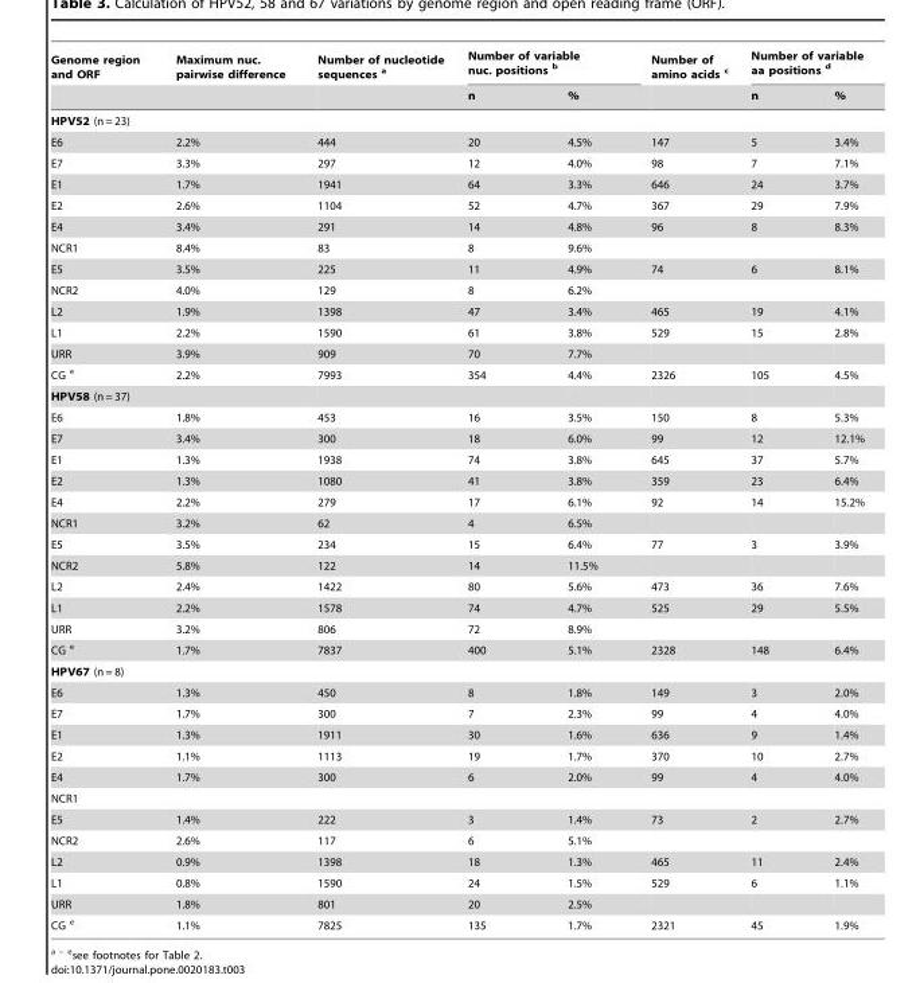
<table><thead><tr><td rowspan="2">Genome region and ORF</td><td rowspan="2">Maximum nuc. pairwise difference</td><td rowspan="2">Number of nucleotide sequences <sup>a</sup></td><td colspan="2">Number of variable nuc. positions <sup>b</sup></td><td rowspan="2">Number of amino acids <sup>c</sup></td><td colspan="2">Number of variable aa positions <sup>d</sup></td></tr><tr><td>n</td><td>%</td><td>n</td><td>%</td></tr></thead><tbody><tr><td colspan="8">HPV52 (n = 23)</td></tr><tr><td>E6</td><td>2.2%</td><td>444</td><td>20</td><td>4.5%</td><td>147</td><td>5</td><td>3.4%</td></tr><tr><td>E7</td><td>3.3%</td><td>297</td><td>12</td><td>4.0%</td><td>98</td><td>7</td><td>7.1%</td></tr><tr><td>E1</td><td>1.7%</td><td>1941</td><td>64</td><td>3.3%</td><td>646</td><td>24</td><td>3.7%</td></tr><tr><td>E2</td><td>2.6%</td><td>1104</td><td>52</td><td>4.7%</td><td>367</td><td>29</td><td>7.9%</td></tr><tr><td>E4</td><td>3.4%</td><td>291</td><td>14</td><td>4.8%</td><td>96</td><td>8</td><td>8.3%</td></tr><tr><td>NCR1</td><td>8.4%</td><td>83</td><td>8</td><td>9.6%</td><td></td><td></td><td></td></tr><tr><td>E5</td><td>3.5%</td><td>225</td><td>11</td><td>4.9%</td><td>74</td><td>6</td><td>8.1%</td></tr><tr><td>NCR2</td><td>4.0%</td><td>129</td><td>8</td><td>6.2%</td><td></td><td></td><td></td></tr><tr><td>L2</td><td>1.9%</td><td>1398</td><td>47</td><td>3.4%</td><td>465</td><td>19</td><td>4.1%</td></tr><tr><td>L1</td><td>2.2%</td><td>1590</td><td>61</td><td>3.8%</td><td>529</td><td>15</td><td>2.8%</td></tr><tr><td>URR</td><td>3.9%</td><td>909</td><td>70</td><td>7.7%</td><td></td><td></td><td></td></tr><tr><td>CG <sup>e</sup></td><td>2.2%</td><td>7993</td><td>354</td><td>4.4%</td><td>2326</td><td>105</td><td>4.5%</td></tr><tr><td colspan="8">HPV58 (n = 37)</td></tr><tr><td>E6</td><td>1.8%</td><td>453</td><td>16</td><td>3.5%</td><td>150</td><td>8</td><td>5.3%</td></tr><tr><td>E7</td><td>3.4%</td><td>300</td><td>18</td><td>6.0%</td><td>99</td><td>12</td><td>12.1%</td></tr><tr><td>E1</td><td>1.3%</td><td>1938</td><td>74</td><td>3.8%</td><td>645</td><td>37</td><td>5.7%</td></tr><tr><td>E2</td><td>1.3%</td><td>1080</td><td>41</td><td>3.8%</td><td>359</td><td>23</td><td>6.4%</td></tr><tr><td>E4</td><td>2.2%</td><td>279</td><td>17</td><td>6.1%</td><td>92</td><td>14</td><td>15.2%</td></tr><tr><td>NCR1</td><td>3.2%</td><td>62</td><td>4</td><td>6.5%</td><td></td><td></td><td></td></tr><tr><td>E5</td><td>3.5%</td><td>234</td><td>15</td><td>6.4%</td><td>77</td><td>3</td><td>3.9%</td></tr><tr><td>NCR2</td><td>5.8%</td><td>122</td><td>14</td><td>11.5%</td><td></td><td></td><td></td></tr><tr><td>L2</td><td>2.4%</td><td>1422</td><td>80</td><td>5.6%</td><td>473</td><td>36</td><td>7.6%</td></tr><tr><td>L1</td><td>2.2%</td><td>1578</td><td>74</td><td>4.7%</td><td>525</td><td>29</td><td>5.5%</td></tr><tr><td>URR</td><td>3.2%</td><td>806</td><td>72</td><td>8.9%</td><td></td><td></td><td></td></tr><tr><td>CG <sup>e</sup></td><td>1.7%</td><td>7837</td><td>400</td><td>5.1%</td><td>2328</td><td>148</td><td>6.4%</td></tr><tr><td colspan="8">HPV67 (n = 8)</td></tr><tr><td>E6</td><td>1.3%</td><td>450</td><td>8</td><td>1.8%</td><td>149</td><td>3</td><td>2.0%</td></tr><tr><td>E7</td><td>1.7%</td><td>300</td><td>7</td><td>2.3%</td><td>99</td><td>4</td><td>4.0%</td></tr><tr><td>E1</td><td>1.3%</td><td>1911</td><td>30</td><td>1.6%</td><td>636</td><td>9</td><td>1.4%</td></tr><tr><td>E2</td><td>1.1%</td><td>1113</td><td>19</td><td>1.7%</td><td>370</td><td>10</td><td>2.7%</td></tr><tr><td>E4</td><td>1.7%</td><td>300</td><td>6</td><td>2.0%</td><td>99</td><td>4</td><td>4.0%</td></tr><tr><td colspan="8">NCR1</td></tr><tr><td>E5</td><td>1.4%</td><td>222</td><td>3</td><td>1.4%</td><td>73</td><td>2</td><td>2.7%</td></tr><tr><td>NCR2</td><td>2.6%</td><td>117</td><td>6</td><td>5.1%</td><td></td><td></td><td></td></tr><tr><td>L2</td><td>0.9%</td><td>1398</td><td>18</td><td>1.3%</td><td>465</td><td>11</td><td>2.4%</td></tr><tr><td>L1</td><td>0.8%</td><td>1590</td><td>24</td><td>1.5%</td><td>529</td><td>6</td><td>1.1%</td></tr><tr><td>URR</td><td>1.8%</td><td>801</td><td>20</td><td>2.5%</td><td></td><td></td><td></td></tr><tr><td>CG <sup>e</sup></td><td>1.1%</td><td>7825</td><td>135</td><td>1.7%</td><td>2321</td><td>45</td><td>1.9%</td></tr></tbody></table>